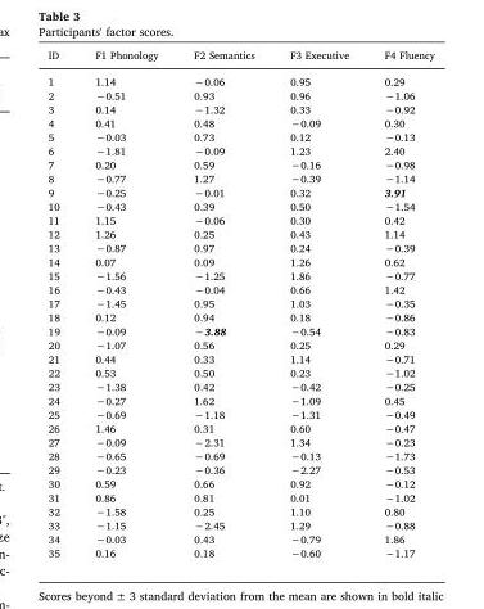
<table><thead><tr><td>ID</td><td>F1 Phonology</td><td>F2 Semantics</td><td>F3 Executive</td><td>F4 Fluency</td></tr></thead><tbody><tr><td>1</td><td>1.14</td><td>−0.06</td><td>0.95</td><td>0.29</td></tr><tr><td>2</td><td>−0.51</td><td>0.93</td><td>0.96</td><td>−1.06</td></tr><tr><td>3</td><td>0.14</td><td>−1.32</td><td>0.33</td><td>−0.92</td></tr><tr><td>4</td><td>0.41</td><td>0.48</td><td>−0.09</td><td>0.30</td></tr><tr><td>5</td><td>−0.03</td><td>0.73</td><td>0.12</td><td>−0.13</td></tr><tr><td>6</td><td>−1.81</td><td>−0.09</td><td>1.23</td><td>2.40</td></tr><tr><td>7</td><td>0.20</td><td>0.59</td><td>−0.16</td><td>−0.98</td></tr><tr><td>8</td><td>−0.77</td><td>1.27</td><td>−0.39</td><td>−1.14</td></tr><tr><td>9</td><td>−0.25</td><td>−0.01</td><td>0.32</td><td>3.91</td></tr><tr><td>10</td><td>−0.43</td><td>0.39</td><td>0.50</td><td>−1.54</td></tr><tr><td>11</td><td>1.15</td><td>−0.06</td><td>0.30</td><td>0.42</td></tr><tr><td>12</td><td>1.26</td><td>0.25</td><td>0.43</td><td>1.14</td></tr><tr><td>13</td><td>−0.87</td><td>0.97</td><td>0.24</td><td>−0.39</td></tr><tr><td>14</td><td>0.07</td><td>0.09</td><td>1.26</td><td>0.62</td></tr><tr><td>15</td><td>−1.56</td><td>−1.25</td><td>1.86</td><td>−0.77</td></tr><tr><td>16</td><td>−0.43</td><td>−0.04</td><td>0.66</td><td>1.42</td></tr><tr><td>17</td><td>−1.45</td><td>0.95</td><td>1.03</td><td>−0.35</td></tr><tr><td>18</td><td>0.12</td><td>0.94</td><td>0.18</td><td>−0.86</td></tr><tr><td>19</td><td>−0.09</td><td>−3.88</td><td>−0.54</td><td>−0.83</td></tr><tr><td>20</td><td>−1.07</td><td>0.56</td><td>0.25</td><td>0.29</td></tr><tr><td>21</td><td>0.44</td><td>0.33</td><td>1.14</td><td>−0.71</td></tr><tr><td>22</td><td>0.53</td><td>0.50</td><td>0.23</td><td>−1.02</td></tr><tr><td>23</td><td>−1.38</td><td>0.42</td><td>−0.42</td><td>−0.25</td></tr><tr><td>24</td><td>−0.27</td><td>1.62</td><td>−1.09</td><td>0.45</td></tr><tr><td>25</td><td>−0.69</td><td>−1.18</td><td>−1.31</td><td>−0.49</td></tr><tr><td>26</td><td>1.46</td><td>0.31</td><td>0.60</td><td>−0.47</td></tr><tr><td>27</td><td>−0.09</td><td>−2.31</td><td>1.34</td><td>−0.23</td></tr><tr><td>28</td><td>−0.65</td><td>−0.69</td><td>−0.13</td><td>−1.73</td></tr><tr><td>29</td><td>−0.23</td><td>−0.36</td><td>−2.27</td><td>−0.53</td></tr><tr><td>30</td><td>0.59</td><td>0.66</td><td>0.92</td><td>−0.12</td></tr><tr><td>31</td><td>0.86</td><td>0.81</td><td>0.01</td><td>−1.02</td></tr><tr><td>32</td><td>−1.58</td><td>0.25</td><td>1.10</td><td>0.80</td></tr><tr><td>33</td><td>−1.15</td><td>−2.45</td><td>1.29</td><td>−0.88</td></tr><tr><td>34</td><td>−0.03</td><td>0.43</td><td>−0.79</td><td>1.86</td></tr><tr><td>35</td><td>0.16</td><td>0.18</td><td>−0.60</td><td>−1.17</td></tr></tbody></table>